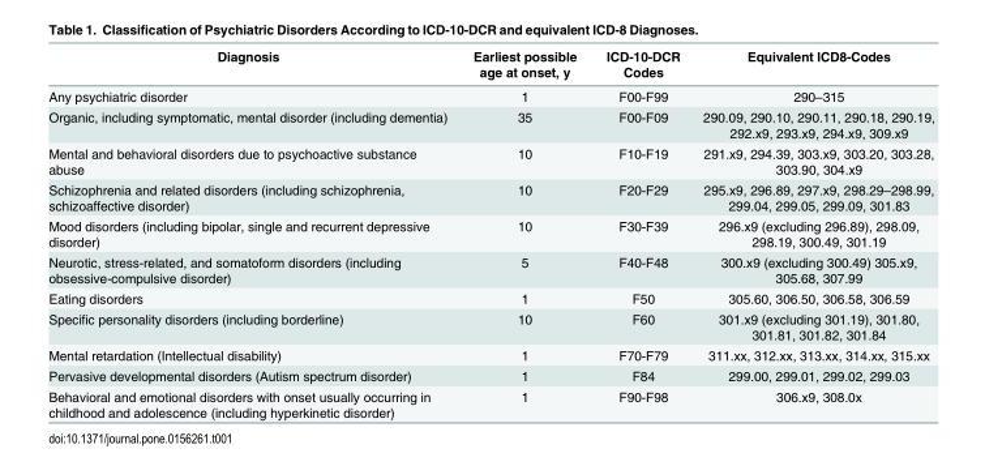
<table><thead><tr><td>Diagnosis</td><td>Earliest possible age at onset, y</td><td>ICD-10-DCR Codes</td><td>Equivalent ICD8-Codes</td></tr></thead><tbody><tr><td>Any psychiatric disorder</td><td>1</td><td>F00-F99</td><td>290–315</td></tr><tr><td>Organic, including symptomatic, mental disorder (including dementia)</td><td>35</td><td>F00-F09</td><td>290.09, 290.10, 290.11, 290.18, 290.19, 292.x9, 293.x9, 294.x9, 309.x9</td></tr><tr><td>Mental and behavioral disorders due to psychoactive substance abuse</td><td>10</td><td>F10-F19</td><td>291.x9, 294.39, 303.x9, 303.20, 303.28, 303.90, 304.x9</td></tr><tr><td>Schizophrenia and related disorders (including schizophrenia, schizoaffective disorder)</td><td>10</td><td>F20-F29</td><td>295.x9, 296.89, 297.x9, 298.29–298.99, 299.04, 299.05, 299.09, 301.83</td></tr><tr><td>Mood disorders (including bipolar, single and recurrent depressive disorder)</td><td>10</td><td>F30-F39</td><td>296.x9 (excluding 296.89), 298.09, 298.19, 300.49, 301.19</td></tr><tr><td>Neurotic, stress-related, and somatoform disorders (including obsessive-compulsive disorder)</td><td>5</td><td>F40-F48</td><td>300.x9 (excluding 300.49) 305.x9, 305.68, 307.99</td></tr><tr><td>Eating disorders</td><td>1</td><td>F50</td><td>305.60, 306.50, 306.58, 306.59</td></tr><tr><td>Specific personality disorders (including borderline)</td><td>10</td><td>F60</td><td>301.x9 (excluding 301.19), 301.80, 301.81, 301.82, 301.84</td></tr><tr><td>Mental retardation (Intellectual disability)</td><td>1</td><td>F70-F79</td><td>311.xx, 312.xx, 313.xx, 314.xx, 315.xx</td></tr><tr><td>Pervasive developmental disorders (Autism spectrum disorder)</td><td>1</td><td>F84</td><td>299.00, 299.01, 299.02, 299.03</td></tr><tr><td>Behavioral and emotional disorders with onset usually occurring in childhood and adolescence (including hyperkinetic disorder)</td><td>1</td><td>F90-F98</td><td>306.x9, 308.0x</td></tr></tbody></table>